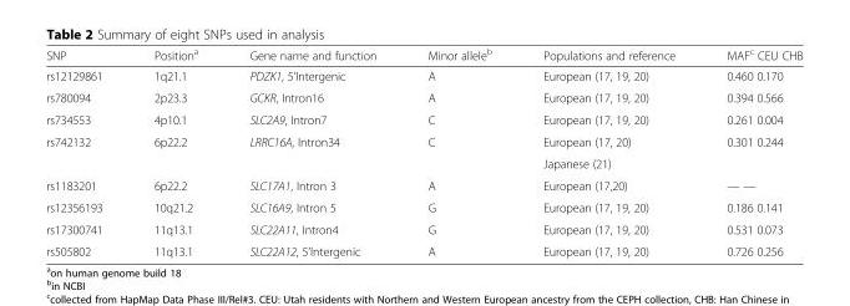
<table><thead><tr><td>SNP</td><td>Position<sup>a</sup></td><td>Gene name and function</td><td>Minor allele<sup>b</sup></td><td>Populations and reference</td><td>MAF<sup>c</sup> CEU CHB</td></tr></thead><tbody><tr><td>rs12129861</td><td>1q21.1</td><td>PDZK1, 5’Intergenic</td><td>A</td><td>European (17, 19, 20)</td><td>0.460 0.170</td></tr><tr><td>rs780094</td><td>2p23.3</td><td>GCKR, Intron16</td><td>A</td><td>European (17, 19, 20)</td><td>0.394 0.566</td></tr><tr><td>rs734553</td><td>4p10.1</td><td>SLC2A9, Intron7</td><td>C</td><td>European (17, 19, 20)</td><td>0.261 0.004</td></tr><tr><td rowspan="2">rs742132</td><td rowspan="2">6p22.2</td><td rowspan="2">LRRC16A, Intron34</td><td rowspan="2">C</td><td>European (17, 20)</td><td rowspan="2">0.301 0.244</td></tr><tr><td>Japanese (21)</td></tr><tr><td>rs1183201</td><td>6p22.2</td><td>SLC17A1, Intron 3</td><td>A</td><td>European (17,20)</td><td>— —</td></tr><tr><td>rs12356193</td><td>10q21.2</td><td>SLC16A9, Intron 5</td><td>G</td><td>European (17, 19, 20)</td><td>0.186 0.141</td></tr><tr><td>rs17300741</td><td>11q13.1</td><td>SLC22A11, Intron4</td><td>G</td><td>European (17, 19, 20)</td><td>0.531 0.073</td></tr><tr><td>rs505802</td><td>11q13.1</td><td>SLC22A12, 5’Intergenic</td><td>A</td><td>European (17, 19, 20)</td><td>0.726 0.256</td></tr></tbody></table>